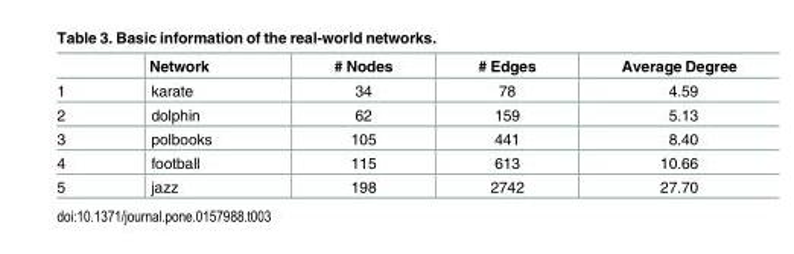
<table><thead><tr><td></td><td>Network</td><td># Nodes</td><td># Edges</td><td>Average Degree</td></tr></thead><tbody><tr><td>1</td><td>karate</td><td>34</td><td>78</td><td>4.59</td></tr><tr><td>2</td><td>dolphin</td><td>62</td><td>159</td><td>5.13</td></tr><tr><td>3</td><td>polbooks</td><td>105</td><td>441</td><td>8.40</td></tr><tr><td>4</td><td>football</td><td>115</td><td>613</td><td>10.66</td></tr><tr><td>5</td><td>jazz</td><td>198</td><td>2742</td><td>27.70</td></tr></tbody></table>